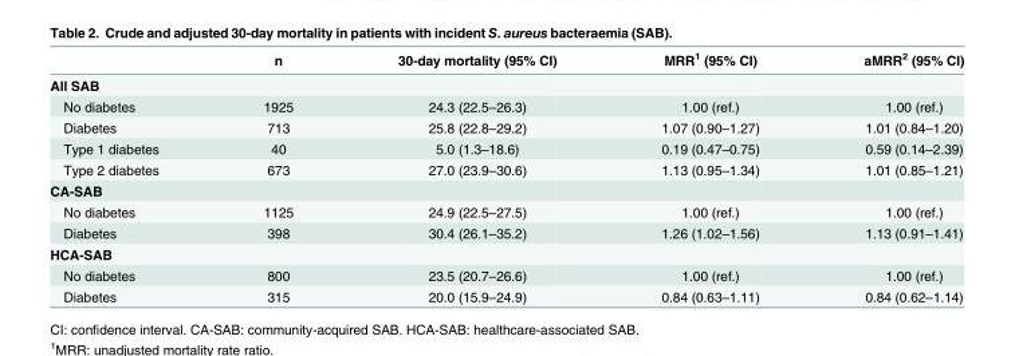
<table><thead><tr><td></td><td>n</td><td>30-day mortality (95% CI)</td><td>MRR<sup>1</sup> (95% CI)</td><td>aMRR<sup>2</sup> (95% CI)</td></tr></thead><tbody><tr><td colspan="5">All SAB</td></tr><tr><td>No diabetes</td><td>1925</td><td>24.3 (22.5–26.3)</td><td>1.00 (ref.)</td><td>1.00 (ref.)</td></tr><tr><td>Diabetes</td><td>713</td><td>25.8 (22.8–29.2)</td><td>1.07 (0.90–1.27)</td><td>1.01 (0.84–1.20)</td></tr><tr><td>Type 1 diabetes</td><td>40</td><td>5.0 (1.3–18.6)</td><td>0.19 (0.47–0.75)</td><td>0.59 (0.14–2.39)</td></tr><tr><td>Type 2 diabetes</td><td>673</td><td>27.0 (23.9–30.6)</td><td>1.13 (0.95–1.34)</td><td>1.01 (0.85–1.21)</td></tr><tr><td colspan="5">CA-SAB</td></tr><tr><td>No diabetes</td><td>1125</td><td>24.9 (22.5–27.5)</td><td>1.00 (ref.)</td><td>1.00 (ref.)</td></tr><tr><td>Diabetes</td><td>398</td><td>30.4 (26.1–35.2)</td><td>1.26 (1.02–1.56)</td><td>1.13 (0.91–1.41)</td></tr><tr><td colspan="5">HCA-SAB</td></tr><tr><td>No diabetes</td><td>800</td><td>23.5 (20.7–26.6)</td><td>1.00 (ref.)</td><td>1.00 (ref.)</td></tr><tr><td>Diabetes</td><td>315</td><td>20.0 (15.9–24.9)</td><td>0.84 (0.63–1.11)</td><td>0.84 (0.62–1.14)</td></tr></tbody></table>